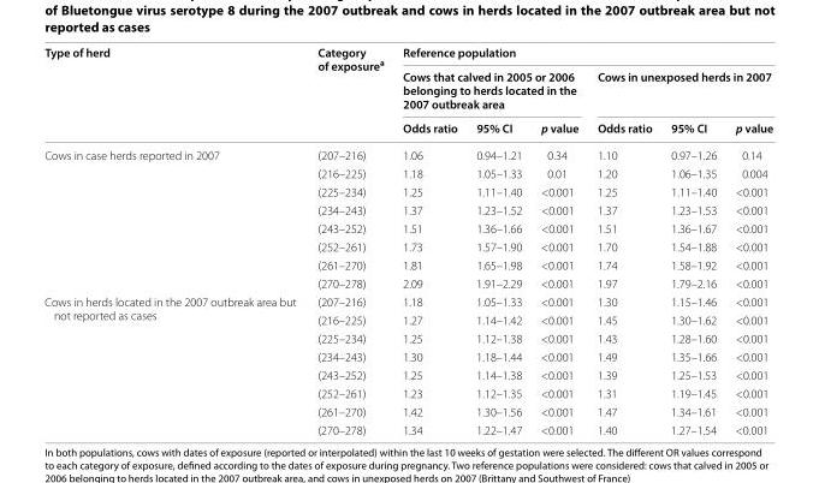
<table><thead><tr><td rowspan="3">Type of herd</td><td rowspan="3">Category of exposure<sup>a</sup></td><td colspan="6">Reference population</td></tr><tr><td colspan="3">Cows that calved in 2005 or 2006 belonging to herds located in the 2007 outbreak area</td><td colspan="3">Cows in unexposed herds in 2007</td></tr><tr><td>Odds ratio</td><td>95% CI</td><td>p value</td><td>Odds ratio</td><td>95% CI</td><td>p value</td></tr></thead><tbody><tr><td rowspan="8">Cows in case herds reported in 2007</td><td>(207–216)</td><td>1.06</td><td>0.94–1.21</td><td>0.34</td><td>1.10</td><td>0.97–1.26</td><td>0.14</td></tr><tr><td>(216–225)</td><td>1.18</td><td>1.05–1.33</td><td>0.01</td><td>1.20</td><td>1.06–1.35</td><td>0.004</td></tr><tr><td>(225–234)</td><td>1.25</td><td>1.11–1.40</td><td>&lt;0.001</td><td>1.25</td><td>1.11–1.40</td><td>&lt;0.001</td></tr><tr><td>(234–243)</td><td>1.37</td><td>1.23–1.52</td><td>&lt;0.001</td><td>1.37</td><td>1.23–1.53</td><td>&lt;0.001</td></tr><tr><td>(243–252)</td><td>1.51</td><td>1.36–1.66</td><td>&lt;0.001</td><td>1.51</td><td>1.36–1.67</td><td>&lt;0.001</td></tr><tr><td>(252–261)</td><td>1.73</td><td>1.57–1.90</td><td>&lt;0.001</td><td>1.70</td><td>1.54–1.88</td><td>&lt;0.001</td></tr><tr><td>(261–270)</td><td>1.81</td><td>1.65–1.98</td><td>&lt;0.001</td><td>1.74</td><td>1.58–1.92</td><td>&lt;0.001</td></tr><tr><td>(270–278)</td><td>2.09</td><td>1.91–2.29</td><td>&lt;0.001</td><td>1.97</td><td>1.79–2.16</td><td>&lt;0.001</td></tr><tr><td rowspan="8">Cows in herds located in the 2007 outbreak area but not reported as cases</td><td>(207–216)</td><td>1.18</td><td>1.05–1.33</td><td>&lt;0.001</td><td>1.30</td><td>1.15–1.46</td><td>&lt;0.001</td></tr><tr><td>(216–225)</td><td>1.27</td><td>1.14–1.42</td><td>&lt;0.001</td><td>1.45</td><td>1.30–1.62</td><td>&lt;0.001</td></tr><tr><td>(225–234)</td><td>1.25</td><td>1.12–1.38</td><td>&lt;0.001</td><td>1.43</td><td>1.28–1.60</td><td>&lt;0.001</td></tr><tr><td>(234–243)</td><td>1.30</td><td>1.18–1.44</td><td>&lt;0.001</td><td>1.49</td><td>1.35–1.66</td><td>&lt;0.001</td></tr><tr><td>(243–252)</td><td>1.25</td><td>1.14–1.38</td><td>&lt;0.001</td><td>1.39</td><td>1.25–1.53</td><td>&lt;0.001</td></tr><tr><td>(252–261)</td><td>1.23</td><td>1.12–1.35</td><td>&lt;0.001</td><td>1.31</td><td>1.19–1.45</td><td>&lt;0.001</td></tr><tr><td>(261–270)</td><td>1.42</td><td>1.30–1.56</td><td>&lt;0.001</td><td>1.47</td><td>1.34–1.61</td><td>&lt;0.001</td></tr><tr><td>(270–278)</td><td>1.34</td><td>1.22–1.47</td><td>&lt;0.001</td><td>1.40</td><td>1.27–1.54</td><td>&lt;0.001</td></tr></tbody></table>